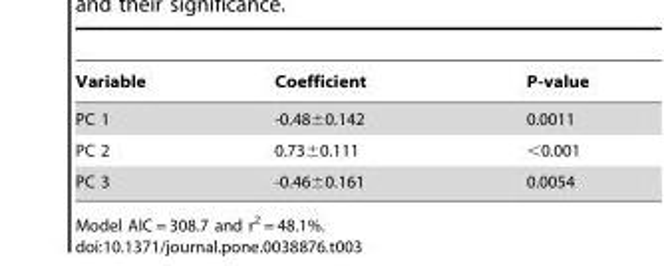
<table><thead><tr><td>Variable</td><td>Coefficient</td><td>P-value</td></tr></thead><tbody><tr><td>PC 1</td><td>-0.48±0.142</td><td>0.0011</td></tr><tr><td>PC 2</td><td>0.73±0.111</td><td>&lt;0.001</td></tr><tr><td>PC 3</td><td>-0.46±0.161</td><td>0.0054</td></tr></tbody></table>